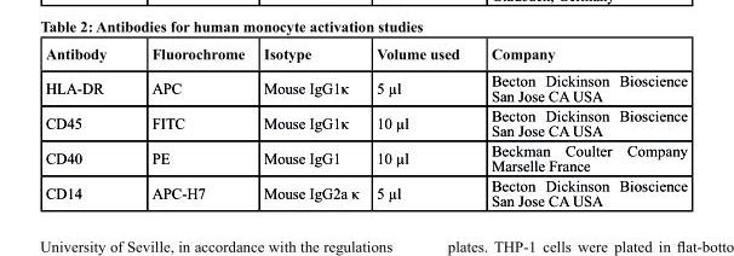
<table><thead><tr><td>Antibody</td><td>Fluorochrome</td><td>Isotype</td><td>Volume used</td><td>company</td></tr></thead><tbody><tr><td>HLA-DR</td><td>APC</td><td>Mouse IgG1κ</td><td>5 µl</td><td>Becton Dickinson Bioscience San Jose CA USA</td></tr><tr><td>CD45</td><td>FITC</td><td>Mouse IgG1κ</td><td>10 µl</td><td>Becton Dickinson Bioscience San Jose CA USA</td></tr><tr><td>CD40</td><td>PE</td><td>Mouse IgG1</td><td>10 µl</td><td>Beckman Coulter Company Marselle France</td></tr><tr><td>CD14</td><td>APC-H7</td><td>Mouse IgG2a κ</td><td>5 µl</td><td>Becton Dickinson Bioscience San Jose CA USA</td></tr></tbody></table>